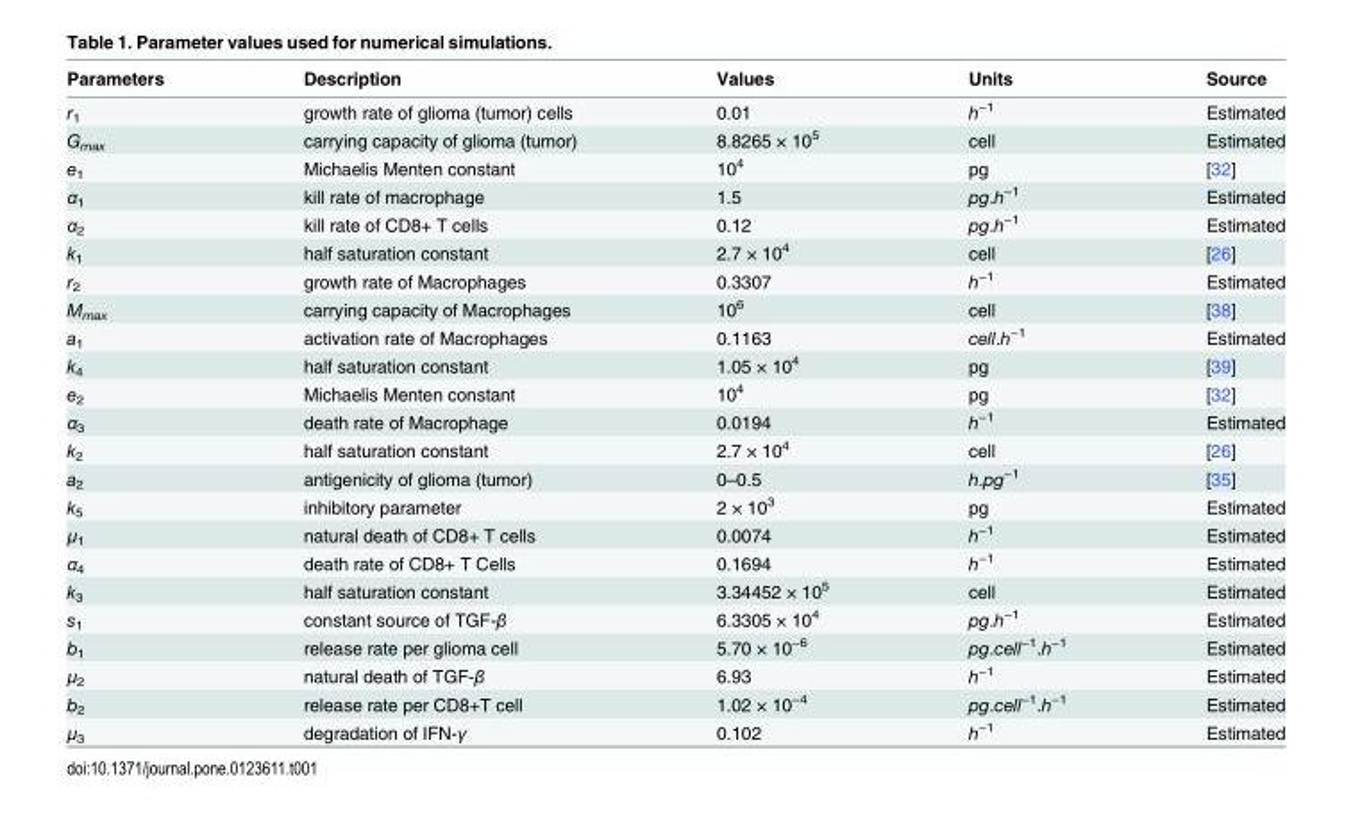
<table><thead><tr><td>Parameters</td><td>Description</td><td>Values</td><td>Units</td><td>Source</td></tr></thead><tbody><tr><td>r<sub>1</sub></td><td>growth rate of glioma (tumor) cells</td><td>0.01</td><td>h<sup>−1</sup></td><td>Estimated</td></tr><tr><td>G<sub>max</sub></td><td>carrying capacity of glioma (tumor)</td><td>8.8265 × 10<sup>5</sup></td><td>cell</td><td>Estimated</td></tr><tr><td>e<sub>1</sub></td><td>Michaelis Menten constant</td><td>10<sup>4</sup></td><td>pg</td><td>[32]</td></tr><tr><td>α<sub>1</sub></td><td>kill rate of macrophage</td><td>1.5</td><td>pg.h<sup>−1</sup></td><td>Estimated</td></tr><tr><td>α<sub>2</sub></td><td>kill rate of CD8+ T cells</td><td>0.12</td><td>pg.h<sup>−1</sup></td><td>Estimated</td></tr><tr><td>k<sub>1</sub></td><td>half saturation constant</td><td>2.7 × 10<sup>4</sup></td><td>cell</td><td>[26]</td></tr><tr><td>r<sub>2</sub></td><td>growth rate of Macrophages</td><td>0.3307</td><td>h<sup>−1</sup></td><td>Estimated</td></tr><tr><td>M<sub>max</sub></td><td>carrying capacity of Macrophages</td><td>10<sup>6</sup></td><td>cell</td><td>[38]</td></tr><tr><td>a<sub>1</sub></td><td>activation rate of Macrophages</td><td>0.1163</td><td>cell.h<sup>−1</sup></td><td>Estimated</td></tr><tr><td>k<sub>4</sub></td><td>half saturation constant</td><td>1.05 × 10<sup>4</sup></td><td>pg</td><td>[39]</td></tr><tr><td>e<sub>2</sub></td><td>Michaelis Menten constant</td><td>10<sup>4</sup></td><td>pg</td><td>[32]</td></tr><tr><td>α<sub>3</sub></td><td>death rate of Macrophage</td><td>0.0194</td><td>h<sup>−1</sup></td><td>Estimated</td></tr><tr><td>k<sub>2</sub></td><td>half saturation constant</td><td>2.7 × 10<sup>4</sup></td><td>cell</td><td>[26]</td></tr><tr><td>a<sub>2</sub></td><td>antigenicity of glioma (tumor)</td><td>0–0.5</td><td>h.pg<sup>−1</sup></td><td>[35]</td></tr><tr><td>k<sub>5</sub></td><td>inhibitory parameter</td><td>2 × 10<sup>3</sup></td><td>pg</td><td>Estimated</td></tr><tr><td>μ<sub>1</sub></td><td>natural death of CD8+ T cells</td><td>0.0074</td><td>h<sup>−1</sup></td><td>Estimated</td></tr><tr><td>α<sub>4</sub></td><td>death rate of CD8+ T Cells</td><td>0.1694</td><td>h<sup>−1</sup></td><td>Estimated</td></tr><tr><td>k<sub>3</sub></td><td>half saturation constant</td><td>3.34452 × 10<sup>5</sup></td><td>cell</td><td>Estimated</td></tr><tr><td>s<sub>1</sub></td><td>constant source of TGF-β</td><td>6.3305 × 10<sup>4</sup></td><td>pg.h<sup>−1</sup></td><td>Estimated</td></tr><tr><td>b<sub>1</sub></td><td>release rate per glioma cell</td><td>5.70 × 10<sup>−6</sup></td><td>pg.cell<sup>−1</sup>.h<sup>−1</sup></td><td>Estimated</td></tr><tr><td>μ<sub>2</sub></td><td>natural death of TGF-β</td><td>6.93</td><td>h<sup>−1</sup></td><td>Estimated</td></tr><tr><td>b<sub>2</sub></td><td>release rate per CD8+T cell</td><td>1.02 × 10<sup>−4</sup></td><td>pg.cell<sup>−1</sup>.h<sup>−1</sup></td><td>Estimated</td></tr><tr><td>μ<sub>3</sub></td><td>degradation of IFN-γ</td><td>0.102</td><td>h<sup>−1</sup></td><td>Estimated</td></tr></tbody></table>